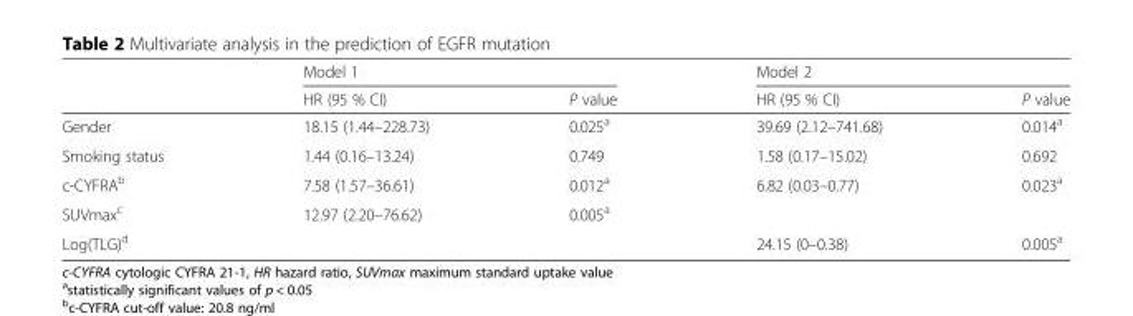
<table><thead><tr><td rowspan="2"></td><td colspan="2">Model 1</td><td colspan="2">Model 2</td></tr><tr><td>HR (95 % CI)</td><td>P value</td><td>HR (95 % CI)</td><td>P value</td></tr></thead><tbody><tr><td>Gender</td><td>18.15 (1.44–228.73)</td><td>0.025<sup>a</sup></td><td>39.69 (2.12–741.68)</td><td>0.014<sup>a</sup></td></tr><tr><td>Smoking status</td><td>1.44 (0.16–13.24)</td><td>0.749</td><td>1.58 (0.17–15.02)</td><td>0.692</td></tr><tr><td>c-CYFRA<sup>b</sup></td><td>7.58 (1.57–36.61)</td><td>0.012<sup>a</sup></td><td>6.82 (0.03–0.77)</td><td>0.023<sup>a</sup></td></tr><tr><td>SUVmax<sup>c</sup></td><td>12.97 (2.20–76.62)</td><td>0.005<sup>a</sup></td><td></td><td></td></tr><tr><td>Log(TLG)<sup>d</sup></td><td></td><td></td><td>24.15 (0–0.38)</td><td>0.005<sup>a</sup></td></tr></tbody></table>